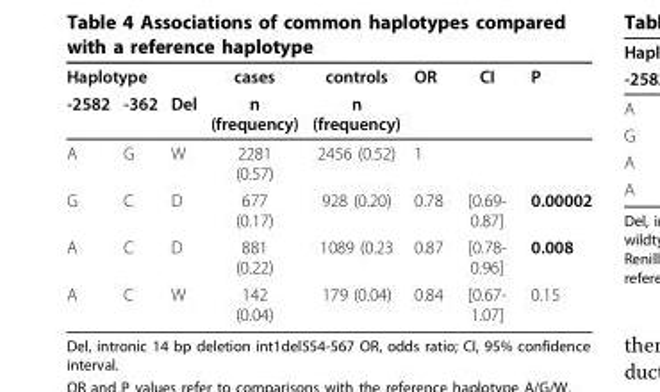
<table><thead><tr><td colspan="2">Haplotype</td><td rowspan="2">Del</td><td rowspan="2">cases n (frequency)</td><td rowspan="2">controls n (frequency)</td><td rowspan="2">OR</td><td rowspan="2">CI</td><td rowspan="2">P</td></tr><tr><td>-2582</td><td>-362</td></tr></thead><tbody><tr><td>A</td><td>G</td><td>W</td><td>2281 (0.57)</td><td>2456 (0.52)</td><td>1</td><td></td><td></td></tr><tr><td>G</td><td>C</td><td>D</td><td>677 (0.17)</td><td>928 (0.20)</td><td>0.78</td><td>[0.69- 0.87]</td><td>0.00002</td></tr><tr><td>A</td><td>C</td><td>D</td><td>881 (0.22)</td><td>1089 (0.23</td><td>0.87</td><td>[0.78- 0.96]</td><td>0.008</td></tr><tr><td>A</td><td>C</td><td>W</td><td>142 (0.04)</td><td>179 (0.04)</td><td>0.84</td><td>[0.67- 1.07]</td><td>0.15</td></tr></tbody></table>